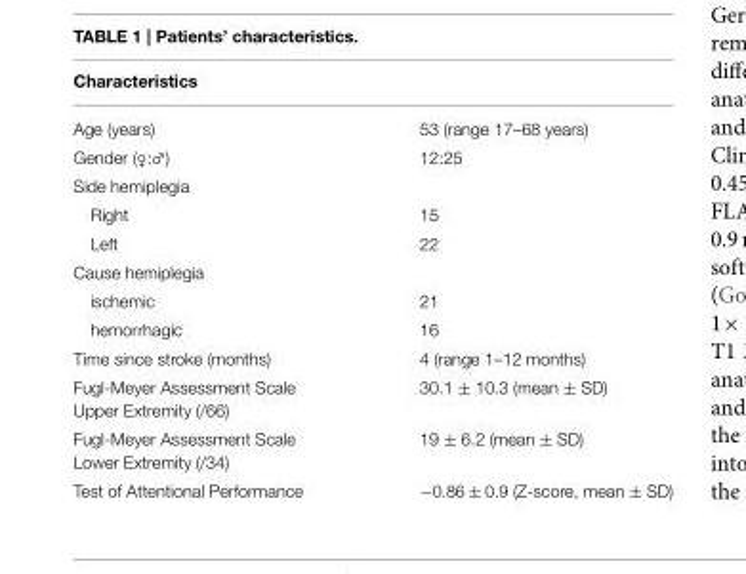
<table><thead><tr><td colspan="2">Characteristics</td></tr><tr><td>Age (years)</td><td>53 (range 17–68 years)</td></tr></thead><tbody><tr><td>Gender (♀:♂)</td><td>12:25</td></tr><tr><td colspan="2">Side hemiplegia</td></tr><tr><td>Right</td><td>15</td></tr><tr><td>Left</td><td>22</td></tr><tr><td colspan="2">Cause hemiplegia</td></tr><tr><td>ischemic</td><td>21</td></tr><tr><td>hemorrhagic</td><td>16</td></tr><tr><td>Time since stroke (months)</td><td>4 (range 1–12 months)</td></tr><tr><td>Fugl-Meyer Assessment Scale Upper Extremity (/66)</td><td>30.1 ± 10.3 (mean ± SD)</td></tr><tr><td>Fugl-Meyer Assessment Scale Lower Extremity (/34)</td><td>19 ± 6.2 (mean ± SD)</td></tr><tr><td>Test of Attentional Performance</td><td>−0.86 ± 0.9 (Z-score, mean ± SD)</td></tr></tbody></table>